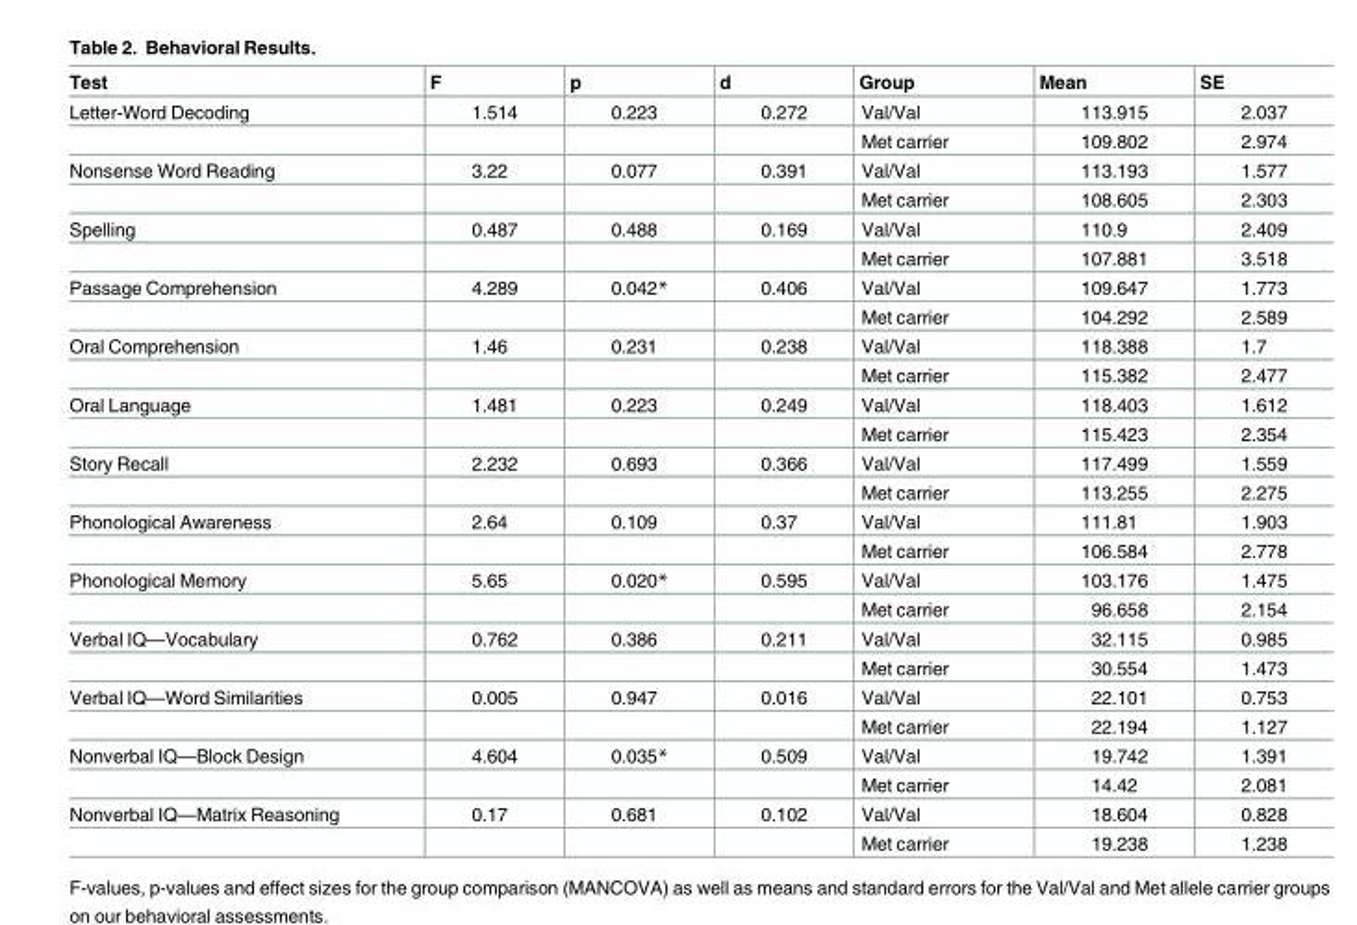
<table><thead><tr><td>Test</td><td>F</td><td>p</td><td>d</td><td>Group</td><td>Mean</td><td>SE</td></tr></thead><tbody><tr><td rowspan="2">Letter-Word Decoding</td><td>1.514</td><td>0.223</td><td>0.272</td><td>Val/Val</td><td>113.915</td><td>2.037</td></tr><tr><td></td><td></td><td></td><td>Met carrier</td><td>109.802</td><td>2.974</td></tr><tr><td rowspan="2">Nonsense Word Reading</td><td>3.22</td><td>0.077</td><td>0.391</td><td>Val/Val</td><td>113.193</td><td>1.577</td></tr><tr><td></td><td></td><td></td><td>Met carrier</td><td>108.605</td><td>2.303</td></tr><tr><td rowspan="2">Spelling</td><td>0.487</td><td>0.488</td><td>0.169</td><td>Val/Val</td><td>110.9</td><td>2.409</td></tr><tr><td></td><td></td><td></td><td>Met carrier</td><td>107.881</td><td>3.518</td></tr><tr><td rowspan="2">Passage Comprehension</td><td>4.289</td><td>0.042*</td><td>0.406</td><td>Val/Val</td><td>109.647</td><td>1.773</td></tr><tr><td></td><td></td><td></td><td>Met carrier</td><td>104.292</td><td>2.589</td></tr><tr><td rowspan="2">Oral Comprehension</td><td>1.46</td><td>0.231</td><td>0.238</td><td>Val/Val</td><td>118.388</td><td>1.7</td></tr><tr><td></td><td></td><td></td><td>Met carrier</td><td>115.382</td><td>2.477</td></tr><tr><td rowspan="2">Oral Language</td><td>1.481</td><td>0.223</td><td>0.249</td><td>Val/Val</td><td>118.403</td><td>1.612</td></tr><tr><td></td><td></td><td></td><td>Met carrier</td><td>115.423</td><td>2.354</td></tr><tr><td rowspan="2">Story Recall</td><td>2.232</td><td>0.693</td><td>0.366</td><td>Val/Val</td><td>117.499</td><td>1.559</td></tr><tr><td></td><td></td><td></td><td>Met carrier</td><td>113.255</td><td>2.275</td></tr><tr><td rowspan="2">Phonological Awareness</td><td>2.64</td><td>0.109</td><td>0.37</td><td>Val/Val</td><td>111.81</td><td>1.903</td></tr><tr><td></td><td></td><td></td><td>Met carrier</td><td>106.584</td><td>2.778</td></tr><tr><td rowspan="2">Phonological Memory</td><td>5.65</td><td>0.020*</td><td>0.595</td><td>Val/Val</td><td>103.176</td><td>1.475</td></tr><tr><td></td><td></td><td></td><td>Met carrier</td><td>96.658</td><td>2.154</td></tr><tr><td rowspan="2">Verbal IQ—Vocabulary</td><td>0.762</td><td>0.386</td><td>0.211</td><td>Val/Val</td><td>32.115</td><td>0.985</td></tr><tr><td></td><td></td><td></td><td>Met carrier</td><td>30.554</td><td>1.473</td></tr><tr><td rowspan="2">Verbal IQ—Word Similarities</td><td>0.005</td><td>0.947</td><td>0.016</td><td>Val/Val</td><td>22.101</td><td>0.753</td></tr><tr><td></td><td></td><td></td><td>Met carrier</td><td>22.194</td><td>1.127</td></tr><tr><td rowspan="2">Nonverbal IQ—Block Design</td><td>4.604</td><td>0.035*</td><td>0.509</td><td>Val/Val</td><td>19.742</td><td>1.391</td></tr><tr><td></td><td></td><td></td><td>Met carrier</td><td>14.42</td><td>2.081</td></tr><tr><td rowspan="2">Nonverbal IQ—Matrix Reasoning</td><td>0.17</td><td>0.681</td><td>0.102</td><td>Val/Val</td><td>18.604</td><td>0.828</td></tr><tr><td></td><td></td><td></td><td>Met carrier</td><td>19.238</td><td>1.238</td></tr></tbody></table>